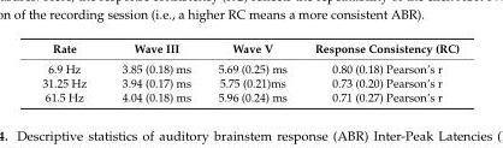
<table><thead><tr><td>Rate</td><td>Wave III</td><td>Wave V</td><td>Response Consistency (RC)</td></tr></thead><tbody><tr><td>6.9 Hz</td><td>3.85 (0.18) ms</td><td>5.69 (0.25) ms</td><td>0.80 (0.18) Pearson’s r</td></tr><tr><td>31.25 Hz</td><td>3.94 (0.17) ms</td><td>5.75 (0.21)ms</td><td>0.73 (0.20) Pearson’s r</td></tr><tr><td>61.5 Hz</td><td>4.04 (0.18) ms</td><td>5.96 (0.24) ms</td><td>0.71 (0.27) Pearson’s r</td></tr></tbody></table>